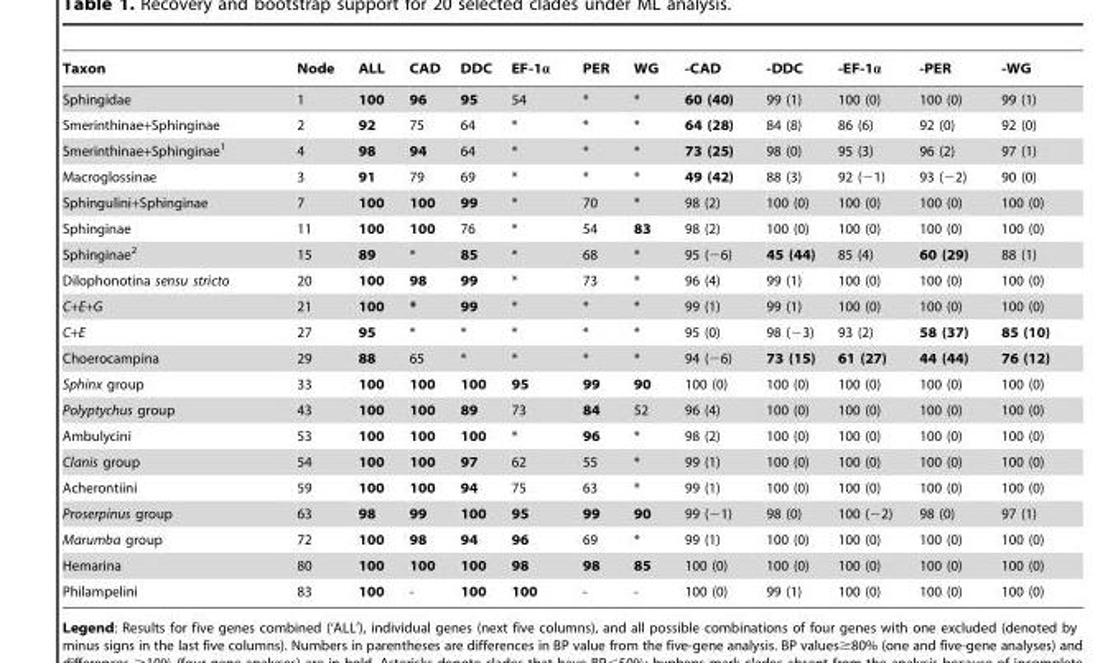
<table><thead><tr><td>Taxon</td><td>Node</td><td>ALL</td><td>CAD</td><td>DDC</td><td>EF-1α</td><td>PER</td><td>WG</td><td>-CAD</td><td>-DDC</td><td>-EF-1α</td><td>-PER</td><td>-WG</td></tr></thead><tbody><tr><td>Sphingidae</td><td>1</td><td>100</td><td>96</td><td>95</td><td>54</td><td>*</td><td>*</td><td>60 (40)</td><td>99 (1)</td><td>100 (0)</td><td>100 (0)</td><td>99 (1)</td></tr><tr><td>Smerinthinae+Sphinginae</td><td>2</td><td>92</td><td>75</td><td>64</td><td>*</td><td>*</td><td>*</td><td>64 (28)</td><td>84 (8)</td><td>86 (6)</td><td>92 (0)</td><td>92 (0)</td></tr><tr><td>Smerinthinae+Sphinginae<sup>1</sup></td><td>4</td><td>98</td><td>94</td><td>64</td><td>*</td><td>*</td><td>*</td><td>73 (25)</td><td>98 (0)</td><td>95 (3)</td><td>96 (2)</td><td>97 (1)</td></tr><tr><td>Macroglossinae</td><td>3</td><td>91</td><td>79</td><td>69</td><td>*</td><td>*</td><td>*</td><td>49 (42)</td><td>88 (3)</td><td>92 (−1)</td><td>93 (−2)</td><td>90 (0)</td></tr><tr><td>Sphingulini+Sphinginae</td><td>7</td><td>100</td><td>100</td><td>99</td><td>*</td><td>70</td><td>*</td><td>98 (2)</td><td>100 (0)</td><td>100 (0)</td><td>100 (0)</td><td>100 (0)</td></tr><tr><td>Sphinginae</td><td>11</td><td>100</td><td>100</td><td>76</td><td>*</td><td>54</td><td>83</td><td>98 (2)</td><td>100 (0)</td><td>100 (0)</td><td>100 (0)</td><td>100 (0)</td></tr><tr><td>Sphinginae<sup>2</sup></td><td>15</td><td>89</td><td>*</td><td>85</td><td>*</td><td>68</td><td>*</td><td>95 (−6)</td><td>45 (44)</td><td>85 (4)</td><td>60 (29)</td><td>88 (1)</td></tr><tr><td>Dilophonotina sensu stricto</td><td>20</td><td>100</td><td>98</td><td>99</td><td>*</td><td>73</td><td>*</td><td>96 (4)</td><td>99 (1)</td><td>100 (0)</td><td>100 (0)</td><td>100 (0)</td></tr><tr><td>C+E+G</td><td>21</td><td>100</td><td>*</td><td>99</td><td>*</td><td>*</td><td>*</td><td>99 (1)</td><td>99 (1)</td><td>100 (0)</td><td>100 (0)</td><td>100 (0)</td></tr><tr><td>C+E</td><td>27</td><td>95</td><td>*</td><td>*</td><td>*</td><td>*</td><td>*</td><td>95 (0)</td><td>98 (−3)</td><td>93 (2)</td><td>58 (37)</td><td>85 (10)</td></tr><tr><td>Choerocampina</td><td>29</td><td>88</td><td>65</td><td>*</td><td>*</td><td>*</td><td>*</td><td>94 (−6)</td><td>73 (15)</td><td>61 (27)</td><td>44 (44)</td><td>76 (12)</td></tr><tr><td>Sphinx group</td><td>33</td><td>100</td><td>100</td><td>100</td><td>95</td><td>99</td><td>90</td><td>100 (0)</td><td>100 (0)</td><td>100 (0)</td><td>100 (0)</td><td>100 (0)</td></tr><tr><td>Polyptychus group</td><td>43</td><td>100</td><td>100</td><td>89</td><td>73</td><td>84</td><td>52</td><td>96 (4)</td><td>100 (0)</td><td>100 (0)</td><td>100 (0)</td><td>100 (0)</td></tr><tr><td>Ambulycini</td><td>53</td><td>100</td><td>100</td><td>100</td><td>*</td><td>96</td><td>*</td><td>98 (2)</td><td>100 (0)</td><td>100 (0)</td><td>100 (0)</td><td>100 (0)</td></tr><tr><td>Clanis group</td><td>54</td><td>100</td><td>100</td><td>97</td><td>62</td><td>55</td><td>*</td><td>99 (1)</td><td>100 (0)</td><td>100 (0)</td><td>100 (0)</td><td>100 (0)</td></tr><tr><td>Acherontiini</td><td>59</td><td>100</td><td>100</td><td>94</td><td>75</td><td>63</td><td>*</td><td>99 (1)</td><td>100 (0)</td><td>100 (0)</td><td>100 (0)</td><td>100 (0)</td></tr><tr><td>Proserpinus group</td><td>63</td><td>98</td><td>99</td><td>100</td><td>95</td><td>99</td><td>90</td><td>99 (−1)</td><td>98 (0)</td><td>100 (−2)</td><td>98 (0)</td><td>97 (1)</td></tr><tr><td>Marumba group</td><td>72</td><td>100</td><td>98</td><td>94</td><td>96</td><td>69</td><td>*</td><td>99 (1)</td><td>100 (0)</td><td>100 (0)</td><td>100 (0)</td><td>100 (0)</td></tr><tr><td>Hemarina</td><td>80</td><td>100</td><td>100</td><td>100</td><td>98</td><td>98</td><td>85</td><td>100 (0)</td><td>100 (0)</td><td>100 (0)</td><td>100 (0)</td><td>100 (0)</td></tr><tr><td>Philampelini</td><td>83</td><td>100</td><td>-</td><td>100</td><td>100</td><td>-</td><td>-</td><td>100 (0)</td><td>99 (1)</td><td>100 (0)</td><td>100 (0)</td><td>100 (0)</td></tr></tbody></table>